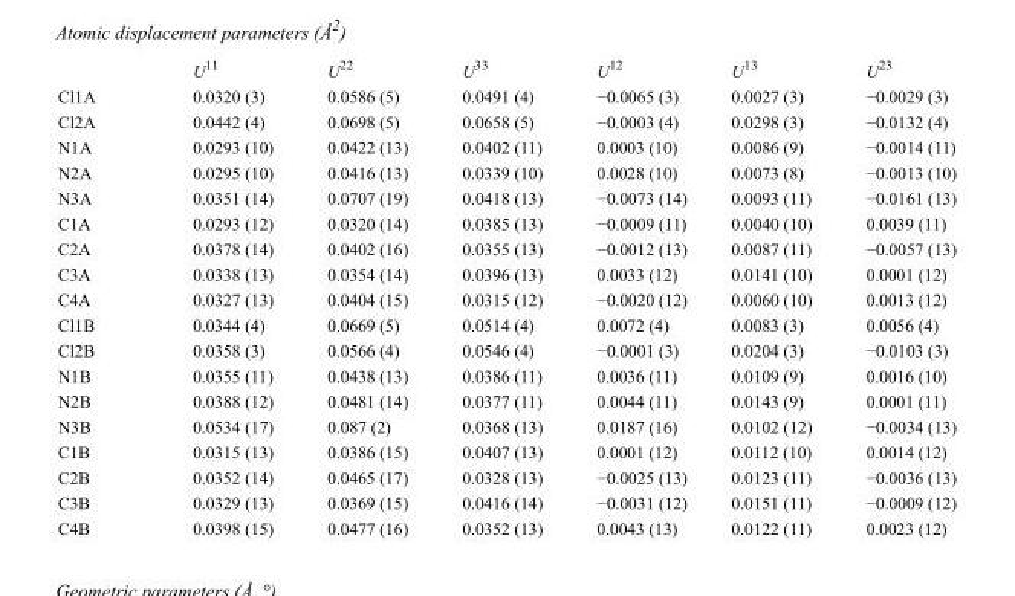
<table><thead><tr><td></td><td>U<sup>11</sup></td><td>U<sup>22</sup></td><td>U<sup>33</sup></td><td>U<sup>12</sup></td><td>U<sup>13</sup></td><td>U<sup>23</sup></td></tr></thead><tbody><tr><td>Cl1A</td><td>0.0320 (3)</td><td>0.0586 (5)</td><td>0.0491 (4)</td><td>−0.0065 (3)</td><td>0.0027 (3)</td><td>−0.0029 (3)</td></tr><tr><td>Cl2A</td><td>0.0442 (4)</td><td>0.0698 (5)</td><td>0.0658 (5)</td><td>−0.0003 (4)</td><td>0.0298 (3)</td><td>−0.0132 (4)</td></tr><tr><td>N1A</td><td>0.0293 (10)</td><td>0.0422 (13)</td><td>0.0402 (11)</td><td>0.0003 (10)</td><td>0.0086 (9)</td><td>−0.0014 (11)</td></tr><tr><td>N2A</td><td>0.0295 (10)</td><td>0.0416 (13)</td><td>0.0339 (10)</td><td>0.0028 (10)</td><td>0.0073 (8)</td><td>−0.0013 (10)</td></tr><tr><td>N3A</td><td>0.0351 (14)</td><td>0.0707 (19)</td><td>0.0418 (13)</td><td>−0.0073 (14)</td><td>0.0093 (11)</td><td>−0.0161 (13)</td></tr><tr><td>C1A</td><td>0.0293 (12)</td><td>0.0320 (14)</td><td>0.0385 (13)</td><td>−0.0009 (11)</td><td>0.0040 (10)</td><td>0.0039 (11)</td></tr><tr><td>C2A</td><td>0.0378 (14)</td><td>0.0402 (16)</td><td>0.0355 (13)</td><td>−0.0012 (13)</td><td>0.0087 (11)</td><td>−0.0057 (13)</td></tr><tr><td>C3A</td><td>0.0338 (13)</td><td>0.0354 (14)</td><td>0.0396 (13)</td><td>0.0033 (12)</td><td>0.0141 (10)</td><td>0.0001 (12)</td></tr><tr><td>C4A</td><td>0.0327 (13)</td><td>0.0404 (15)</td><td>0.0315 (12)</td><td>−0.0020 (12)</td><td>0.0060 (10)</td><td>0.0013 (12)</td></tr><tr><td>Cl1B</td><td>0.0344 (4)</td><td>0.0669 (5)</td><td>0.0514 (4)</td><td>0.0072 (4)</td><td>0.0083 (3)</td><td>0.0056 (4)</td></tr><tr><td>Cl2B</td><td>0.0358 (3)</td><td>0.0566 (4)</td><td>0.0546 (4)</td><td>−0.0001 (3)</td><td>0.0204 (3)</td><td>−0.0103 (3)</td></tr><tr><td>N1B</td><td>0.0355 (11)</td><td>0.0438 (13)</td><td>0.0386 (11)</td><td>0.0036 (11)</td><td>0.0109 (9)</td><td>0.0016 (10)</td></tr><tr><td>N2B</td><td>0.0388 (12)</td><td>0.0481 (14)</td><td>0.0377 (11)</td><td>0.0044 (11)</td><td>0.0143 (9)</td><td>0.0001 (11)</td></tr><tr><td>N3B</td><td>0.0534 (17)</td><td>0.087 (2)</td><td>0.0368 (13)</td><td>0.0187 (16)</td><td>0.0102 (12)</td><td>−0.0034 (13)</td></tr><tr><td>C1B</td><td>0.0315 (13)</td><td>0.0386 (15)</td><td>0.0407 (13)</td><td>0.0001 (12)</td><td>0.0112 (10)</td><td>0.0014 (12)</td></tr><tr><td>C2B</td><td>0.0352 (14)</td><td>0.0465 (17)</td><td>0.0328 (13)</td><td>−0.0025 (13)</td><td>0.0123 (11)</td><td>−0.0036 (13)</td></tr><tr><td>C3B</td><td>0.0329 (13)</td><td>0.0369 (15)</td><td>0.0416 (14)</td><td>−0.0031 (12)</td><td>0.0151 (11)</td><td>−0.0009 (12)</td></tr><tr><td>C4B</td><td>0.0398 (15)</td><td>0.0477 (16)</td><td>0.0352 (13)</td><td>0.0043 (13)</td><td>0.0122 (11)</td><td>0.0023 (12)</td></tr></tbody></table>